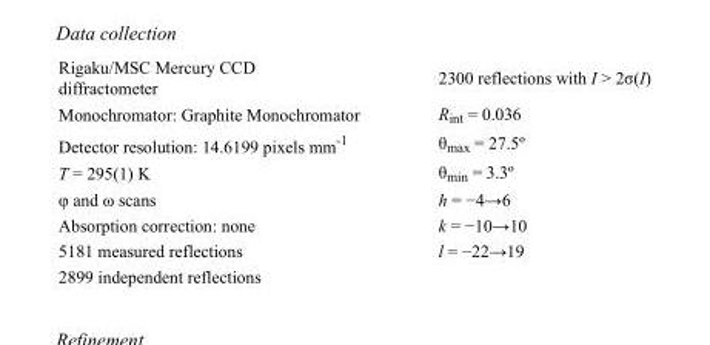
<table><tbody><tr><td>Rigaku/MSC Mercury CCD diffractometer</td><td>2300 reflections with I &gt; 2σ(I)</td></tr><tr><td>Monochromator: Graphite Monochromator</td><td>R<sub>int</sub> = 0.036</td></tr><tr><td>Detector resolution: 14.6199 pixels mm<sup>-1</sup></td><td>θ<sub>max</sub> = 27.5º</td></tr><tr><td>T = 295(1) K</td><td>θ<sub>min</sub> = 3.3º</td></tr><tr><td>φ and ω scans</td><td>h = −4→6</td></tr><tr><td>Absorption correction: none</td><td>k = −10→10</td></tr><tr><td>5181 measured reflections</td><td>l = −22→19</td></tr><tr><td>2899 independent reflections</td><td></td></tr></tbody></table>